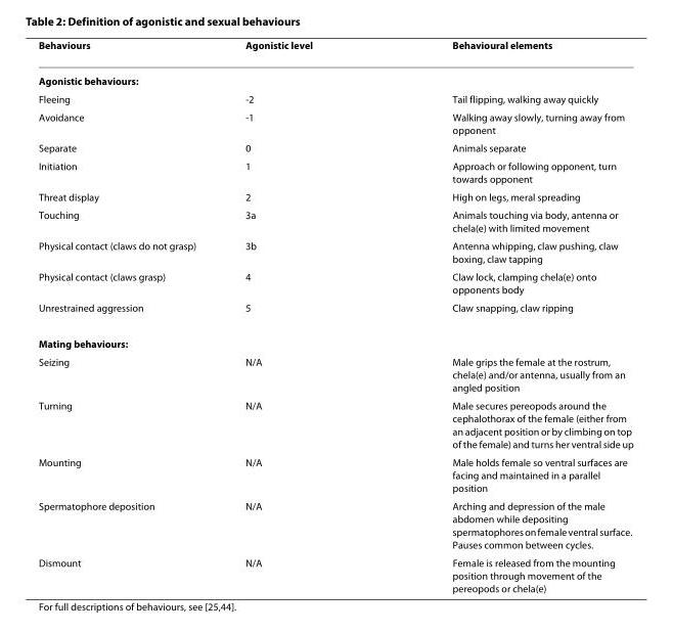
<table><thead><tr><td>Behaviours</td><td>Agonistic level</td><td>Behavioural elements</td></tr></thead><tbody><tr><td colspan="3">Agonistic behaviours:</td></tr><tr><td>Fleeing</td><td>-2</td><td>Tail flipping, walking away quickly</td></tr><tr><td>Avoidance</td><td>-1</td><td>Walking away slowly, turning away from opponent</td></tr><tr><td>Separate</td><td>0</td><td>Animals separate</td></tr><tr><td>Initiation</td><td>1</td><td>Approach or following opponent, turn towards opponent</td></tr><tr><td>Threat display</td><td>2</td><td>High on legs, meral spreading</td></tr><tr><td>Touching</td><td>3a</td><td>Animals touching via body, antenna or chela(e) with limited movement</td></tr><tr><td>Physical contact (claws do not grasp)</td><td>3b</td><td>Antenna whipping, claw pushing, claw boxing, claw tapping</td></tr><tr><td>Physical contact (claws grasp)</td><td>4</td><td>Claw lock, clamping chela(e) onto opponents body</td></tr><tr><td>Unrestrained aggression</td><td>5</td><td>Claw snapping, claw ripping</td></tr><tr><td colspan="3">Mating behaviours:</td></tr><tr><td>Seizing</td><td>N/A</td><td>Male grips the female at the rostrum, chela(e) and/or antenna, usually from an angled position</td></tr><tr><td>Turning</td><td>N/A</td><td>Male secures pereopods around the cephalothorax of the female (either from an adjacent position or by climbing on top of the female) and turns her ventral side up</td></tr><tr><td>Mounting</td><td>N/A</td><td>Male holds female so ventral surfaces are facing and maintained in a parallel position</td></tr><tr><td>Spermatophore deposition</td><td>N/A</td><td>Arching and depression of the male abdomen while depositing spermatophores on female ventral surface. Pauses common between cycles.</td></tr><tr><td>Dismount</td><td>N/A</td><td>Female is released from the mounting position through movement of the pereopods or chela(e)</td></tr></tbody></table>